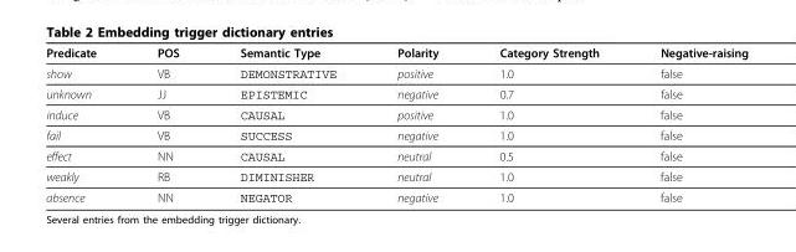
<table><thead><tr><td>Predicate</td><td>POS</td><td>Semantic Type</td><td>Polarity</td><td>Category Strength</td><td>Negative-raising</td></tr></thead><tbody><tr><td>show</td><td>VB</td><td>DEMONSTRATIVE</td><td>positive</td><td>1.0</td><td>false</td></tr><tr><td>unknown</td><td>JJ</td><td>EPISTEMIC</td><td>negative</td><td>0.7</td><td>false</td></tr><tr><td>induce</td><td>VB</td><td>CAUSAL</td><td>positive</td><td>1.0</td><td>false</td></tr><tr><td>fail</td><td>VB</td><td>SUCCESS</td><td>negative</td><td>1.0</td><td>false</td></tr><tr><td>effect</td><td>NN</td><td>CAUSAL</td><td>neutral</td><td>0.5</td><td>false</td></tr><tr><td>weakly</td><td>RB</td><td>DIMINISHER</td><td>neutral</td><td>1.0</td><td>false</td></tr><tr><td>absence</td><td>NN</td><td>NEGATOR</td><td>negative</td><td>1.0</td><td>false</td></tr></tbody></table>